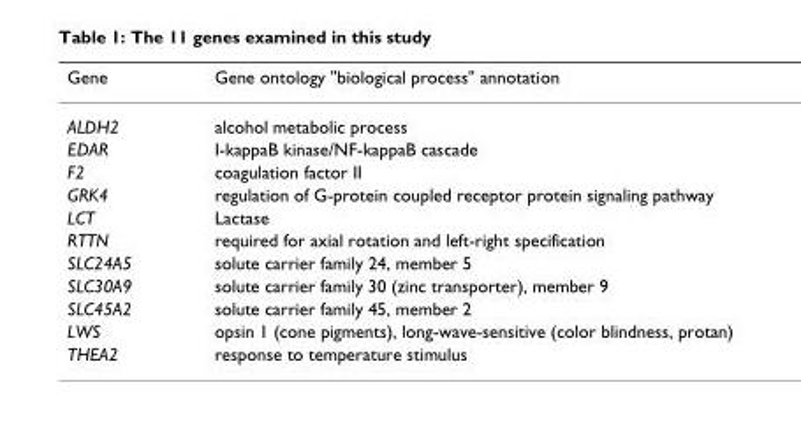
<table><thead><tr><td>Gene</td><td>Gene ontology &quot;biological process&quot; annotation</td></tr></thead><tbody><tr><td>ALDH2</td><td>alcohol metabolic process</td></tr><tr><td>EDAR</td><td>I-kappaB kinase/NF-kappaB cascade</td></tr><tr><td>F2</td><td>coagulation factor II</td></tr><tr><td>GRK4</td><td>regulation of G-protein coupled receptor protein signaling pathway</td></tr><tr><td>LCT</td><td>Lactase</td></tr><tr><td>RTTN</td><td>required for axial rotation and left-right specification</td></tr><tr><td>SLC24A5</td><td>solute carrier family 24, member 5</td></tr><tr><td>SLC30A9</td><td>solute carrier family 30 (zinc transporter), member 9</td></tr><tr><td>SLC45A2</td><td>solute carrier family 45, member 2</td></tr><tr><td>LWS</td><td>opsin 1 (cone pigments), long-wave-sensitive (color blindness, protan)</td></tr><tr><td>THEA2</td><td>response to temperature stimulus</td></tr></tbody></table>